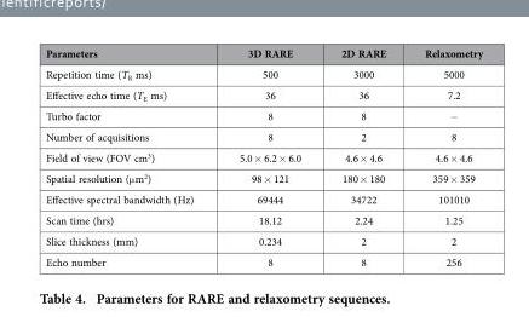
<table><thead><tr><td>Parameters</td><td>3D RARE</td><td>2D RARE</td><td>Relaxometry</td></tr></thead><tbody><tr><td>Repetition time (T<sub>R</sub> ms)</td><td>500</td><td>3000</td><td>5000</td></tr><tr><td>Effective echo time (T<sub>E</sub> ms)</td><td>36</td><td>36</td><td>7.2</td></tr><tr><td>Turbo factor</td><td>8</td><td>8</td><td>−</td></tr><tr><td>Number of acquisitions</td><td>8</td><td>2</td><td>8</td></tr><tr><td>Field of view (FOV cm<sup>3</sup>)</td><td>5.0 × 6.2 × 6.0</td><td>4.6 × 4.6</td><td>4.6 × 4.6</td></tr><tr><td>Spatial resolution (μ m<sup>2</sup>)</td><td>98 × 121</td><td>180 × 180</td><td>359 × 359</td></tr><tr><td>Effective spectral bandwidth (Hz)</td><td>69444</td><td>34722</td><td>101010</td></tr><tr><td>Scan time (hrs)</td><td>18.12</td><td>2.24</td><td>1.25</td></tr><tr><td>Slice thickness (mm)</td><td>0.234</td><td>2</td><td>2</td></tr><tr><td>Echo number</td><td>8</td><td>8</td><td>256</td></tr></tbody></table>